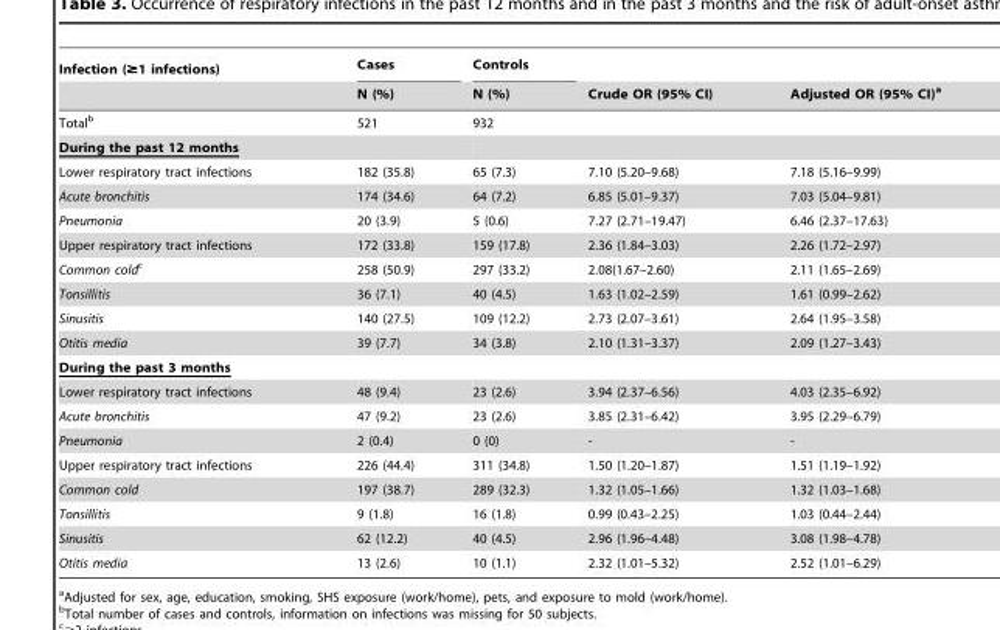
<table><thead><tr><td rowspan="2">Infection (≥1 infections)</td><td rowspan="2">Cases N (%)</td><td rowspan="2">Controls N (%)</td><td rowspan="2">Crude OR (95% CI)</td><td rowspan="2">Adjusted OR (95% CI)<sup>a</sup></td></tr><tr></tr></thead><tbody><tr><td>Total<sup>b</sup></td><td>521</td><td>932</td><td></td><td></td></tr><tr><td colspan="5">During the past 12 months</td></tr><tr><td>Lower respiratory tract infections</td><td>182 (35.8)</td><td>65 (7.3)</td><td>7.10 (5.20–9.68)</td><td>7.18 (5.16–9.99)</td></tr><tr><td>Acute bronchitis</td><td>174 (34.6)</td><td>64 (7.2)</td><td>6.85 (5.01–9.37)</td><td>7.03 (5.04–9.81)</td></tr><tr><td>Pneumonia</td><td>20 (3.9)</td><td>5 (0.6)</td><td>7.27 (2.71–19.47)</td><td>6.46 (2.37–17.63)</td></tr><tr><td>Upper respiratory tract infections</td><td>172 (33.8)</td><td>159 (17.8)</td><td>2.36 (1.84–3.03)</td><td>2.26 (1.72–2.97)</td></tr><tr><td>Common coldc</td><td>258 (50.9)</td><td>297 (33.2)</td><td>2.08(1.67–2.60)</td><td>2.11 (1.65–2.69)</td></tr><tr><td>Tonsillitis</td><td>36 (7.1)</td><td>40 (4.5)</td><td>1.63 (1.02–2.59)</td><td>1.61 (0.99–2.62)</td></tr><tr><td>Sinusitis</td><td>140 (27.5)</td><td>109 (12.2)</td><td>2.73 (2.07–3.61)</td><td>2.64 (1.95–3.58)</td></tr><tr><td>Otitis media</td><td>39 (7.7)</td><td>34 (3.8)</td><td>2.10 (1.31–3.37)</td><td>2.09 (1.27–3.43)</td></tr><tr><td colspan="5">During the past 3 months</td></tr><tr><td>Lower respiratory tract infections</td><td>48 (9.4)</td><td>23 (2.6)</td><td>3.94 (2.37–6.56)</td><td>4.03 (2.35–6.92)</td></tr><tr><td>Acute bronchitis</td><td>47 (9.2)</td><td>23 (2.6)</td><td>3.85 (2.31–6.42)</td><td>3.95 (2.29–6.79)</td></tr><tr><td>Pneumonia</td><td>2 (0.4)</td><td>0 (0)</td><td>-</td><td>-</td></tr><tr><td>Upper respiratory tract infections</td><td>226 (44.4)</td><td>311 (34.8)</td><td>1.50 (1.20–1.87)</td><td>1.51 (1.19–1.92)</td></tr><tr><td>Common cold</td><td>197 (38.7)</td><td>289 (32.3)</td><td>1.32 (1.05–1.66)</td><td>1.32 (1.03–1.68)</td></tr><tr><td>Tonsillitis</td><td>9 (1.8)</td><td>16 (1.8)</td><td>0.99 (0.43–2.25)</td><td>1.03 (0.44–2.44)</td></tr><tr><td>Sinusitis</td><td>62 (12.2)</td><td>40 (4.5)</td><td>2.96 (1.96–4.48)</td><td>3.08 (1.98–4.78)</td></tr><tr><td>Otitis media</td><td>13 (2.6)</td><td>10 (1.1)</td><td>2.32 (1.01–5.32)</td><td>2.52 (1.01–6.29)</td></tr></tbody></table>